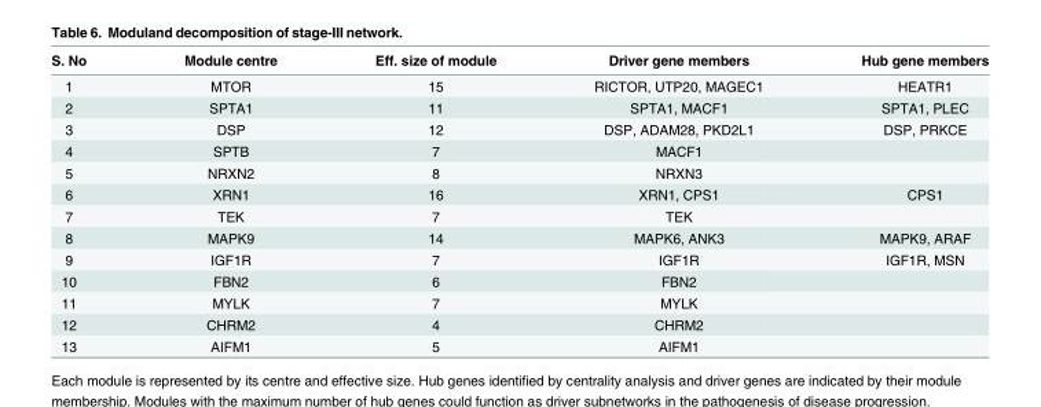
<table><thead><tr><td>S. No</td><td>Module centre</td><td>Eff. size of module</td><td>Driver gene members</td><td>Hub gene members</td></tr></thead><tbody><tr><td>1</td><td>MTOR</td><td>15</td><td>RICTOR, UTP20, MAGEC1</td><td>HEATR1</td></tr><tr><td>2</td><td>SPTA1</td><td>11</td><td>SPTA1, MACF1</td><td>SPTA1, PLEC</td></tr><tr><td>3</td><td>DSP</td><td>12</td><td>DSP, ADAM28, PKD2L1</td><td>DSP, PRKCE</td></tr><tr><td>4</td><td>SPTB</td><td>7</td><td>MACF1</td><td></td></tr><tr><td>5</td><td>NRXN2</td><td>8</td><td>NRXN3</td><td></td></tr><tr><td>6</td><td>XRN1</td><td>16</td><td>XRN1, CPS1</td><td>CPS1</td></tr><tr><td>7</td><td>TEK</td><td>7</td><td>TEK</td><td></td></tr><tr><td>8</td><td>MAPK9</td><td>14</td><td>MAPK6, ANK3</td><td>MAPK9, ARAF</td></tr><tr><td>9</td><td>IGF1R</td><td>7</td><td>IGF1R</td><td>IGF1R, MSN</td></tr><tr><td>10</td><td>FBN2</td><td>6</td><td>FBN2</td><td></td></tr><tr><td>11</td><td>MYLK</td><td>7</td><td>MYLK</td><td></td></tr><tr><td>12</td><td>CHRM2</td><td>4</td><td>CHRM2</td><td></td></tr><tr><td>13</td><td>AIFM1</td><td>5</td><td>AIFM1</td><td></td></tr></tbody></table>